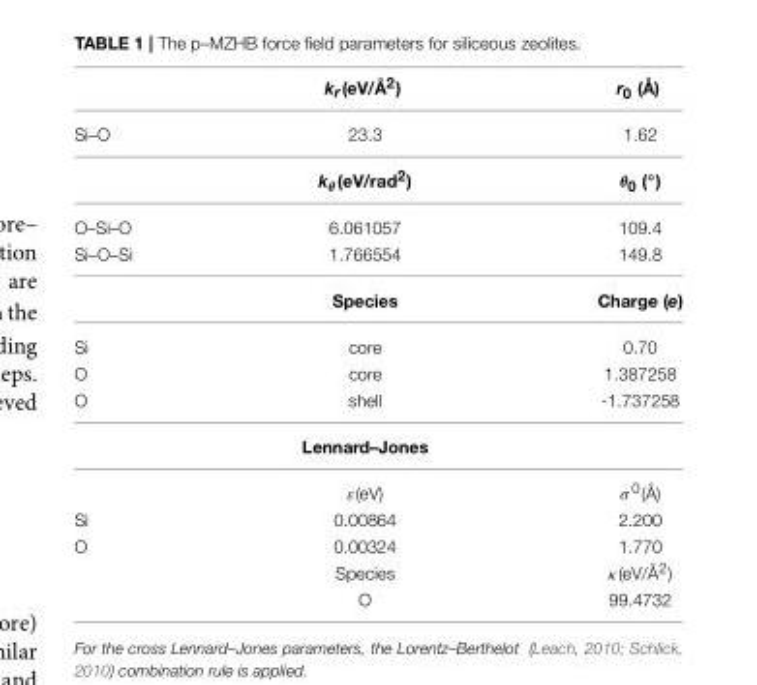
<table><thead><tr><td></td><td>kr(eV/Å2)</td><td>r0 (Å)</td></tr></thead><tbody><tr><td rowspan="2">Si–O</td><td>23.3</td><td>1.62</td></tr><tr><td>k<sub>θ</sub> (eV/rad<sup>2</sup>)</td><td>θ0 (◦)</td></tr><tr><td>O–Si–O</td><td>6.061057</td><td>109.4</td></tr><tr><td rowspan="2">Si–O–Si</td><td>1.766554</td><td>149.8</td></tr><tr><td>Species</td><td>Charge (e)</td></tr><tr><td>Si</td><td>core</td><td>0.70</td></tr><tr><td>O</td><td>core</td><td>1.387258</td></tr><tr><td rowspan="3">O</td><td>shell</td><td>-1.737258</td></tr><tr><td>Lennard–Jones</td><td></td></tr><tr><td>ε(eV)</td><td>σ <sup>0</sup>(Å)</td></tr><tr><td>Si</td><td>0.00864</td><td>2.200</td></tr><tr><td rowspan="3">O</td><td>0.00324</td><td>1.770</td></tr><tr><td>Species</td><td>κ(eV/Å<sup>2</sup>)</td></tr><tr><td>O</td><td>99.4732</td></tr></tbody></table>